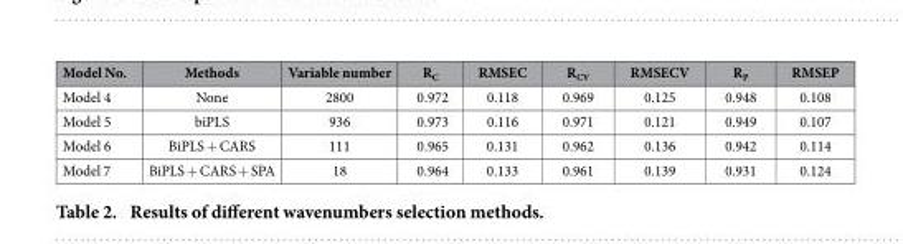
<table><thead><tr><td>Model No.</td><td>Methods</td><td>Variable number</td><td>R<sub>C</sub></td><td>RMSEC</td><td>R<sub>CV</sub></td><td>RMSECV</td><td>R<sub>P</sub></td><td>RMSEP</td></tr></thead><tbody><tr><td>Model 4</td><td>None</td><td>2800</td><td>0.972</td><td>0.118</td><td>0.969</td><td>0.125</td><td>0.948</td><td>0.108</td></tr><tr><td>Model 5</td><td>biPLS</td><td>936</td><td>0.973</td><td>0.116</td><td>0.971</td><td>0.121</td><td>0.949</td><td>0.107</td></tr><tr><td>Model 6</td><td>BiPLS + CARS</td><td>111</td><td>0.965</td><td>0.131</td><td>0.962</td><td>0.136</td><td>0.942</td><td>0.114</td></tr><tr><td>Model 7</td><td>BiPLS + CARS + SPA</td><td>18</td><td>0.964</td><td>0.133</td><td>0.961</td><td>0.139</td><td>0.931</td><td>0.124</td></tr></tbody></table>